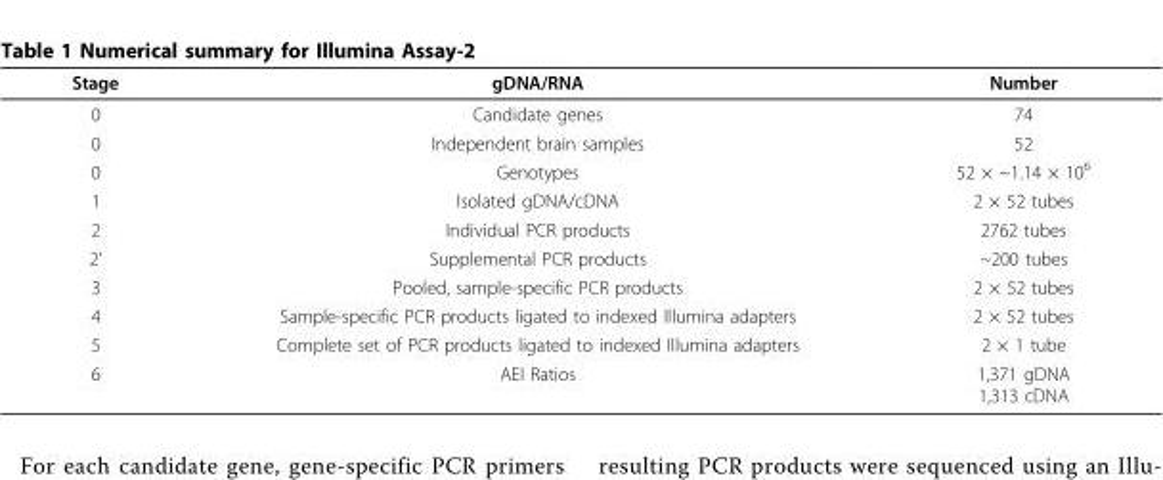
<table><thead><tr><td>Stage</td><td>gDNA/RNA</td><td>Number</td></tr></thead><tbody><tr><td>0</td><td>Candidate genes</td><td>74</td></tr><tr><td>0</td><td>Independent brain samples</td><td>52</td></tr><tr><td>0</td><td>Genotypes</td><td>52 × ~1.14 × 10<sup>6</sup></td></tr><tr><td>1</td><td>Isolated gDNA/cDNA</td><td>2 × 52 tubes</td></tr><tr><td>2</td><td>Individual PCR products</td><td>2762 tubes</td></tr><tr><td>2’</td><td>Supplemental PCR products</td><td>~200 tubes</td></tr><tr><td>3</td><td>Pooled, sample-specific PCR products</td><td>2 × 52 tubes</td></tr><tr><td>4</td><td>Sample-specific PCR products ligated to indexed Illumina adapters</td><td>2 × 52 tubes</td></tr><tr><td>5</td><td>Complete set of PCR products ligated to indexed Illumina adapters</td><td>2 × 1 tube</td></tr><tr><td>6</td><td>AEI Ratios</td><td>1,371 gDNA 1,313 cDNA</td></tr></tbody></table>